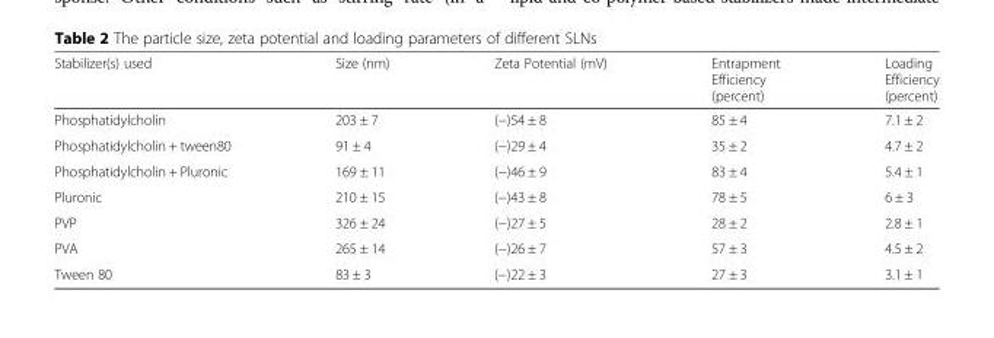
<table><thead><tr><td>Stabilizer(s) used</td><td>Size (nm)</td><td>Zeta Potential (mV)</td><td>Entrapment Efficiency (percent)</td><td>Loading Efficiency (percent)</td></tr></thead><tbody><tr><td>Phosphatidylcholin</td><td>203 ± 7</td><td>(−)54 ± 8</td><td>85 ± 4</td><td>7.1 ± 2</td></tr><tr><td>Phosphatidylcholin + tween80</td><td>91 ± 4</td><td>(−)29 ± 4</td><td>35 ± 2</td><td>4.7 ± 2</td></tr><tr><td>Phosphatidylcholin + Pluronic</td><td>169 ± 11</td><td>(−)46 ± 9</td><td>83 ± 4</td><td>5.4 ± 1</td></tr><tr><td>Pluronic</td><td>210 ± 15</td><td>(−)43 ± 8</td><td>78 ± 5</td><td>6 ± 3</td></tr><tr><td>PVP</td><td>326 ± 24</td><td>(−)27 ± 5</td><td>28 ± 2</td><td>2.8 ± 1</td></tr><tr><td>PVA</td><td>265 ± 14</td><td>(−)26 ± 7</td><td>57 ± 3</td><td>4.5 ± 2</td></tr><tr><td>Tween 80</td><td>83 ± 3</td><td>(−)22 ± 3</td><td>27 ± 3</td><td>3.1 ± 1</td></tr></tbody></table>